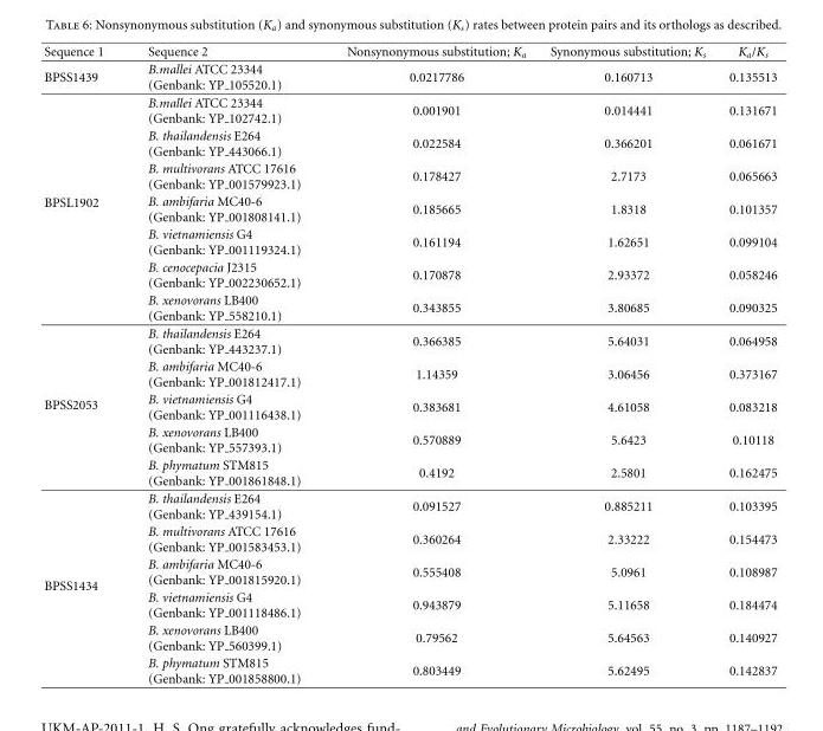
<table><thead><tr><td>Sequence 1</td><td>Sequence 2</td><td>Nonsynonymous substitution; K<sub>a</sub></td><td>Synonymous substitution; K<sub>s</sub></td><td>K<sub>a</sub>/K<sub>s</sub></td></tr></thead><tbody><tr><td>BPSS1439</td><td>B.mallei ATCC 23344 (Genbank: YP 105520.1)</td><td>0.0217786</td><td>0.160713</td><td>0.135513</td></tr><tr><td rowspan="7">BPSL1902</td><td>B.mallei ATCC 23344 (Genbank: YP 102742.1)</td><td>0.001901</td><td>0.014441</td><td>0.131671</td></tr><tr><td>B. thailandensis E264 (Genbank: YP 443066.1)</td><td>0.022584</td><td>0.366201</td><td>0.061671</td></tr><tr><td>B. multivorans ATCC 17616 (Genbank: YP 001579923.1)</td><td>0.178427</td><td>2.7173</td><td>0.065663</td></tr><tr><td>B. ambifaria MC40-6 (Genbank: YP 001808141.1)</td><td>0.185665</td><td>1.8318</td><td>0.101357</td></tr><tr><td>B. vietnamiensis G4 (Genbank: YP 001119324.1)</td><td>0.161194</td><td>1.62651</td><td>0.099104</td></tr><tr><td>B. cenocepacia J2315 (Genbank: YP 002230652.1)</td><td>0.170878</td><td>2.93372</td><td>0.058246</td></tr><tr><td>B. xenovorans LB400 (Genbank: YP 558210.1)</td><td>0.343855</td><td>3.80685</td><td>0.090325</td></tr><tr><td rowspan="5">BPSS2053</td><td>B. thailandensis E264 (Genbank: YP 443237.1)</td><td>0.366385</td><td>5.64031</td><td>0.064958</td></tr><tr><td>B. ambifaria MC40-6 (Genbank: YP 001812417.1)</td><td>1.14359</td><td>3.06456</td><td>0.373167</td></tr><tr><td>B. vietnamiensis G4 (Genbank: YP 001116438.1)</td><td>0.383681</td><td>4.61058</td><td>0.083218</td></tr><tr><td>B. xenovorans LB400 (Genbank: YP 557393.1)</td><td>0.570889</td><td>5.6423</td><td>0.10118</td></tr><tr><td>B. phymatum STM815 (Genbank: YP 001861848.1)</td><td>0.4192</td><td>2.5801</td><td>0.162475</td></tr><tr><td rowspan="6">BPSS1434</td><td>B. thailandensis E264 (Genbank: YP 439154.1)</td><td>0.091527</td><td>0.885211</td><td>0.103395</td></tr><tr><td>B. multivorans ATCC 17616 (Genbank: YP 001583453.1)</td><td>0.360264</td><td>2.33222</td><td>0.154473</td></tr><tr><td>B. ambifaria MC40-6 (Genbank: YP 001815920.1)</td><td>0.555408</td><td>5.0961</td><td>0.108987</td></tr><tr><td>B. vietnamiensis G4 (Genbank: YP 001118486.1)</td><td>0.943879</td><td>5.11658</td><td>0.184474</td></tr><tr><td>B. xenovorans LB400 (Genbank: YP 560399.1)</td><td>0.79562</td><td>5.64563</td><td>0.140927</td></tr><tr><td>B. phymatum STM815 (Genbank: YP 001858800.1)</td><td>0.803449</td><td>5.62495</td><td>0.142837</td></tr></tbody></table>